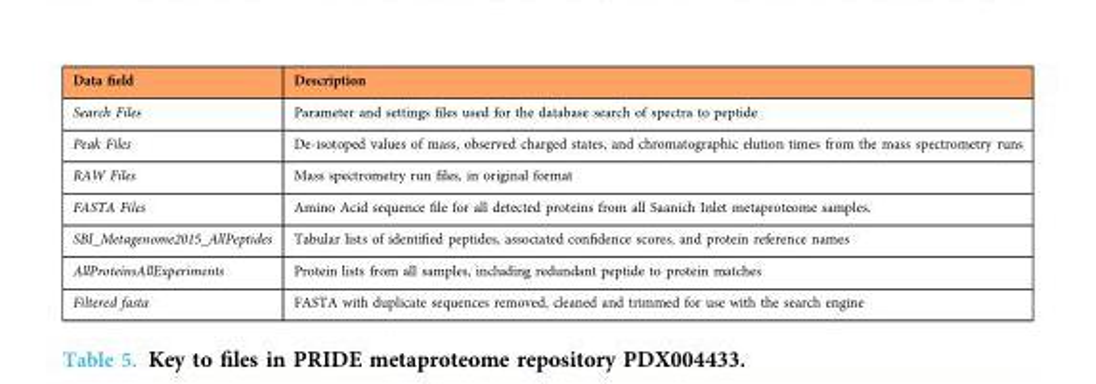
<table><thead><tr><td>Data field</td><td>Description</td></tr></thead><tbody><tr><td>Search Files</td><td>Parameter and settings files used for the database search of spectra to peptide</td></tr><tr><td>Peak Files</td><td>De-isotoped values of mass, observed charged states, and chromatographic elution times from the mass spectrometry runs</td></tr><tr><td>RAW Files</td><td>Mass spectrometry run files, in original format</td></tr><tr><td>FASTA Files</td><td>Amino Acid sequence file for all detected proteins from all Saanich Inlet metaproteome samples.</td></tr><tr><td>SBI_Metagenome2015_AllPeptides</td><td>Tabular lists of identified peptides, associated confidence scores, and protein reference names</td></tr><tr><td>AllProteinsAllExperiments</td><td>Protein lists from all samples, including redundant peptide to protein matches</td></tr><tr><td>Filtered fasta</td><td>FASTA with duplicate sequences removed, cleaned and trimmed for use with the search engine</td></tr></tbody></table>